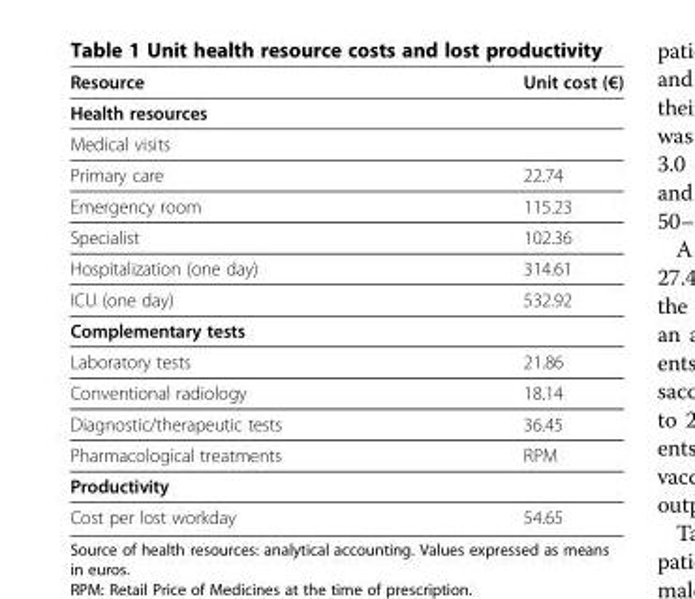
<table><thead><tr><td>Resource</td><td>Unit cost (€)</td></tr></thead><tbody><tr><td colspan="2">Health resources</td></tr><tr><td colspan="2">Medical visits</td></tr><tr><td>Primary care</td><td>22.74</td></tr><tr><td>Emergency room</td><td>115.23</td></tr><tr><td>Specialist</td><td>102.36</td></tr><tr><td>Hospitalization (one day)</td><td>314.61</td></tr><tr><td>ICU (one day)</td><td>532.92</td></tr><tr><td colspan="2">Complementary tests</td></tr><tr><td>Laboratory tests</td><td>21.86</td></tr><tr><td>Conventional radiology</td><td>18.14</td></tr><tr><td>Diagnostic/therapeutic tests</td><td>36.45</td></tr><tr><td>Pharmacological treatments</td><td>RPM</td></tr><tr><td colspan="2">Productivity</td></tr><tr><td>Cost per lost workday</td><td>54.65</td></tr></tbody></table>